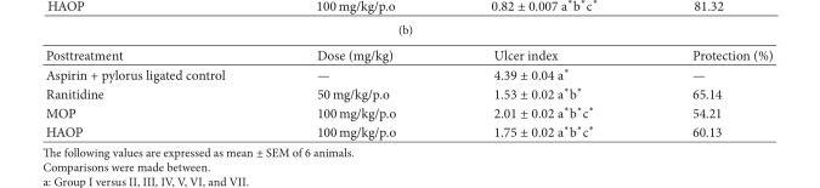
<table><thead><tr><td>Posttreatment</td><td>Dose (mg/kg)</td><td>Ulcer index</td><td>Protection (%)</td></tr></thead><tbody><tr><td>Aspirin + pylorus ligated control</td><td>—</td><td>4.39 ± 0.04 a∗</td><td>—</td></tr><tr><td>Ranitidine</td><td>50 mg/kg/p.o</td><td>1.53 ± 0.02 a∗b∗</td><td>65.14</td></tr><tr><td>MOP</td><td>100 mg/kg/p.o</td><td>2.01 ± 0.02 a∗b∗c∗</td><td>54.21</td></tr><tr><td>HAOP</td><td>100 mg/kg/p.o</td><td>1.75 ± 0.02 a∗b∗c∗</td><td>60.13</td></tr></tbody></table>